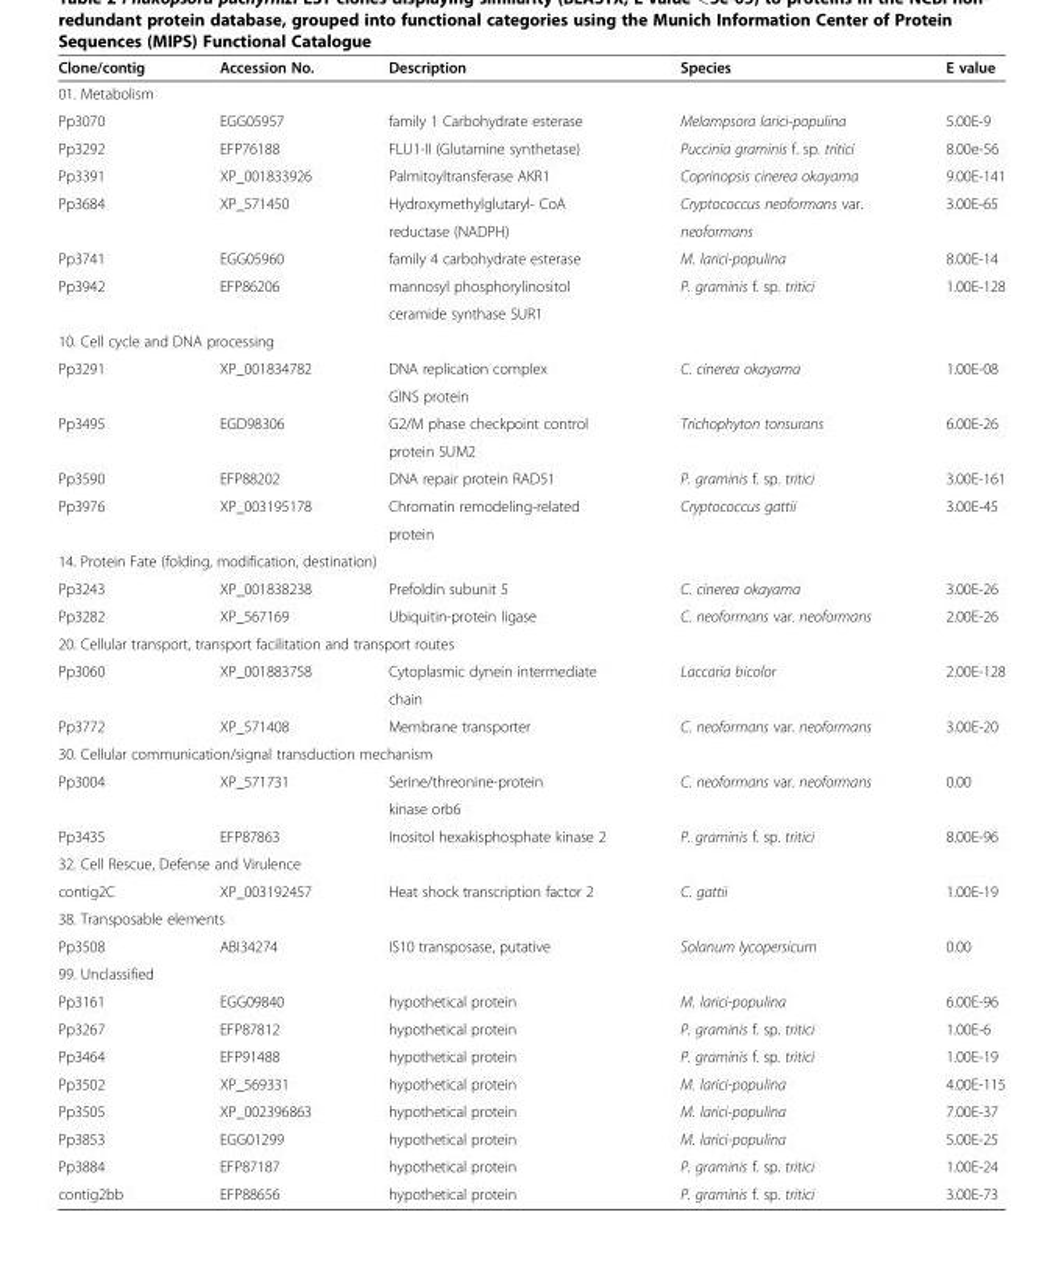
<table><thead><tr><td>Clone/contig</td><td>Accession No.</td><td>Description</td><td>Species</td><td>E value</td></tr></thead><tbody><tr><td colspan="5">01. Metabolism</td></tr><tr><td>Pp3070</td><td>EGG05957</td><td>family 1 Carbohydrate esterase</td><td>Melampsora larici-populina</td><td>5.00E-9</td></tr><tr><td>Pp3292</td><td>EFP76188</td><td>FLU1-II (Glutamine synthetase)</td><td>Puccinia graminis f. sp. tritici</td><td>8.00e-56</td></tr><tr><td>Pp3391</td><td>XP_001833926</td><td>Palmitoyltransferase AKR1</td><td>Coprinopsis cinerea okayama</td><td>9.00E-141</td></tr><tr><td rowspan="2">Pp3684</td><td>XP_571450</td><td>Hydroxymethylglutaryl- CoA</td><td>Cryptococcus neoformans var.</td><td>3.00E-65</td></tr><tr><td></td><td>reductase (NADPH)</td><td>neoformans</td><td></td></tr><tr><td>Pp3741</td><td>EGG05960</td><td>family 4 carbohydrate esterase</td><td>M. larici-populina</td><td>8.00E-14</td></tr><tr><td rowspan="2">Pp3942</td><td>EFP86206</td><td>mannosyl phosphorylinositol</td><td>P. graminis f. sp. tritici</td><td>1.00E-128</td></tr><tr><td></td><td>ceramide synthase SUR1</td><td></td><td></td></tr><tr><td colspan="5">10. Cell cycle and DNA processing</td></tr><tr><td rowspan="2">Pp3291</td><td>XP_001834782</td><td>DNA replication complex</td><td>C. cinerea okayama</td><td>1.00E-08</td></tr><tr><td></td><td>GINS protein</td><td></td><td></td></tr><tr><td rowspan="2">Pp3495</td><td>EGD98306</td><td>G2/M phase checkpoint control</td><td>Trichophyton tonsurans</td><td>6.00E-26</td></tr><tr><td></td><td>protein SUM2</td><td></td><td></td></tr><tr><td>Pp3590</td><td>EFP88202</td><td>DNA repair protein RAD51</td><td>P. graminis f. sp. tritici</td><td>3.00E-161</td></tr><tr><td rowspan="2">Pp3976</td><td>XP_003195178</td><td>Chromatin remodeling-related</td><td>Cryptococcus gattii</td><td>3.00E-45</td></tr><tr><td></td><td>protein</td><td></td><td></td></tr><tr><td colspan="5">14. Protein Fate (folding, modification, destination)</td></tr><tr><td>Pp3243</td><td>XP_001838238</td><td>Prefoldin subunit 5</td><td>C. cinerea okayama</td><td>3.00E-26</td></tr><tr><td>Pp3282</td><td>XP_567169</td><td>Ubiquitin-protein ligase</td><td>C. neoformans var. neoformans</td><td>2.00E-26</td></tr><tr><td colspan="5">20. Cellular transport, transport facilitation and transport routes</td></tr><tr><td rowspan="2">Pp3060</td><td>XP_001883758</td><td>Cytoplasmic dynein intermediate</td><td>Laccaria bicolor</td><td>2.00E-128</td></tr><tr><td></td><td>chain</td><td></td><td></td></tr><tr><td>Pp3772</td><td>XP_571408</td><td>Membrane transporter</td><td>C. neoformans var. neoformans</td><td>3.00E-20</td></tr><tr><td colspan="5">30. Cellular communication/signal transduction mechanism</td></tr><tr><td rowspan="2">Pp3004</td><td>XP_571731</td><td>Serine/threonine-protein</td><td>C. neoformans var. neoformans</td><td>0.00</td></tr><tr><td></td><td>kinase orb6</td><td></td><td></td></tr><tr><td>Pp3435</td><td>EFP87863</td><td>Inositol hexakisphosphate kinase 2</td><td>P. graminis f. sp. tritici</td><td>8.00E-96</td></tr><tr><td colspan="5">32. Cell Rescue, Defense and Virulence</td></tr><tr><td>contig2C</td><td>XP_003192457</td><td>Heat shock transcription factor 2</td><td>C. gattii</td><td>1.00E-19</td></tr><tr><td colspan="5">38. Transposable elements</td></tr><tr><td>Pp3508</td><td>ABI34274</td><td>IS10 transposase, putative</td><td>Solanum lycopersicum</td><td>0.00</td></tr><tr><td colspan="5">99. Unclassified</td></tr><tr><td>Pp3161</td><td>EGG09840</td><td>hypothetical protein</td><td>M. larici-populina</td><td>6.00E-96</td></tr><tr><td>Pp3267</td><td>EFP87812</td><td>hypothetical protein</td><td>P. graminis f. sp. tritici</td><td>1.00E-6</td></tr><tr><td>Pp3464</td><td>EFP91488</td><td>hypothetical protein</td><td>P. graminis f. sp. tritici</td><td>1.00E-19</td></tr><tr><td>Pp3502</td><td>XP_569331</td><td>hypothetical protein</td><td>M. larici-populina</td><td>4.00E-115</td></tr><tr><td>Pp3505</td><td>XP_002396863</td><td>hypothetical protein</td><td>M. larici-populina</td><td>7.00E-37</td></tr><tr><td>Pp3853</td><td>EGG01299</td><td>hypothetical protein</td><td>M. larici-populina</td><td>5.00E-25</td></tr><tr><td>Pp3884</td><td>EFP87187</td><td>hypothetical protein</td><td>P. graminis f. sp. tritici</td><td>1.00E-24</td></tr><tr><td>contig2bb</td><td>EFP88656</td><td>hypothetical protein</td><td>P. graminis f. sp. tritici</td><td>3.00E-73</td></tr></tbody></table>